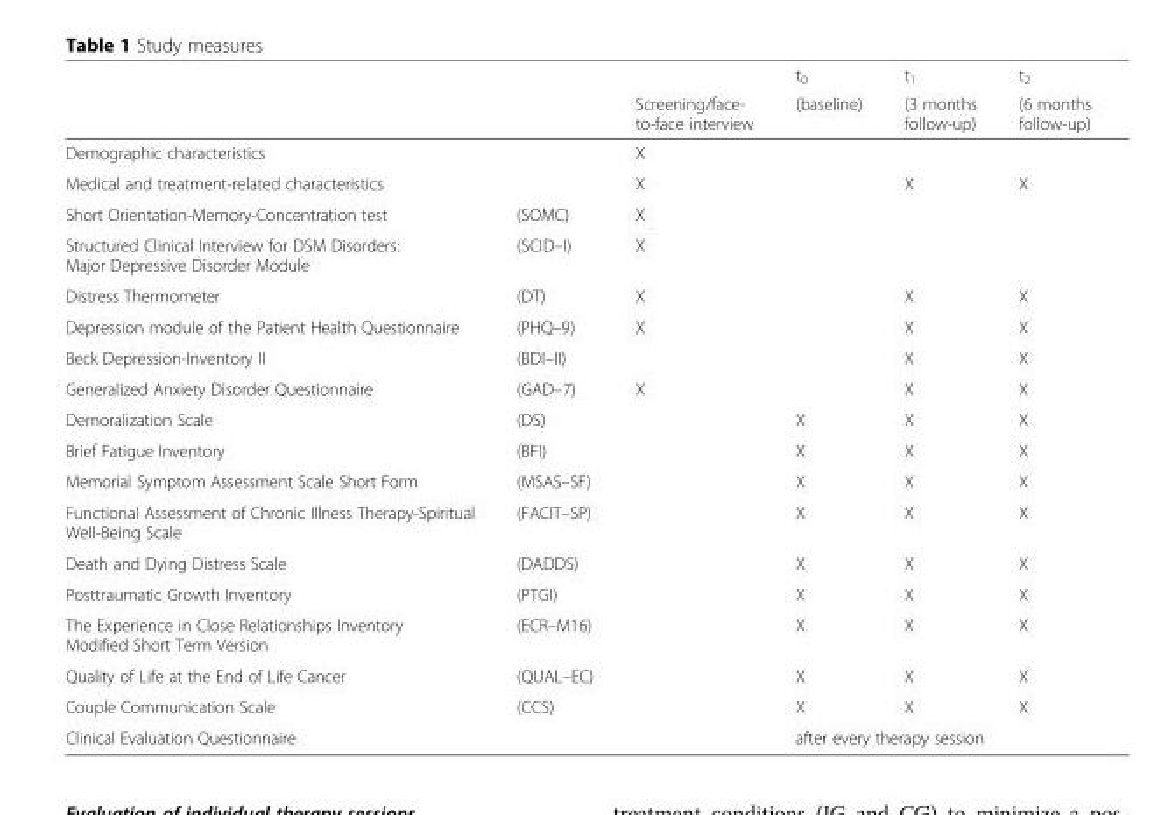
<table><thead><tr><td rowspan="2"></td><td rowspan="2"></td><td rowspan="2">Screening/face- to-face interview</td><td rowspan="2">t<sub>0</sub> (baseline)</td><td rowspan="2">t<sub>1</sub> (3 months follow-up)</td><td rowspan="2">t<sub>2</sub> (6 months follow-up)</td></tr><tr></tr></thead><tbody><tr><td>Demographic characteristics</td><td></td><td>X</td><td></td><td></td><td></td></tr><tr><td>Medical and treatment-related characteristics</td><td></td><td>X</td><td></td><td>X</td><td>X</td></tr><tr><td>Short Orientation-Memory-Concentration test</td><td>(SOMC)</td><td>X</td><td></td><td></td><td></td></tr><tr><td>Structured Clinical Interview for DSM Disorders: Major Depressive Disorder Module</td><td>(SCID–I)</td><td>X</td><td></td><td></td><td></td></tr><tr><td>Distress Thermometer</td><td>(DT)</td><td>X</td><td></td><td>X</td><td>X</td></tr><tr><td>Depression module of the Patient Health Questionnaire</td><td>(PHQ–9)</td><td>X</td><td></td><td>X</td><td>X</td></tr><tr><td>Beck Depression-Inventory II</td><td>(BDI–II)</td><td></td><td></td><td>X</td><td>X</td></tr><tr><td>Generalized Anxiety Disorder Questionnaire</td><td>(GAD–7)</td><td>X</td><td></td><td>X</td><td>X</td></tr><tr><td>Demoralization Scale</td><td>(DS)</td><td></td><td>X</td><td>X</td><td>X</td></tr><tr><td>Brief Fatigue Inventory</td><td>(BFI)</td><td></td><td>X</td><td>X</td><td>X</td></tr><tr><td>Memorial Symptom Assessment Scale Short Form</td><td>(MSAS–SF)</td><td></td><td>X</td><td>X</td><td>X</td></tr><tr><td>Functional Assessment of Chronic Illness Therapy-Spiritual Well-Being Scale</td><td>(FACIT–SP)</td><td></td><td>X</td><td>X</td><td>X</td></tr><tr><td>Death and Dying Distress Scale</td><td>(DADDS)</td><td></td><td>X</td><td>X</td><td>X</td></tr><tr><td>Posttraumatic Growth Inventory</td><td>(PTGI)</td><td></td><td>X</td><td>X</td><td>X</td></tr><tr><td>The Experience in Close Relationships Inventory Modified Short Term Version</td><td>(ECR–M16)</td><td></td><td>X</td><td>X</td><td>X</td></tr><tr><td>Quality of Life at the End of Life Cancer</td><td>(QUAL–EC)</td><td></td><td>X</td><td>X</td><td>X</td></tr><tr><td>Couple Communication Scale</td><td>(CCS)</td><td></td><td>X</td><td>X</td><td>X</td></tr><tr><td>Clinical Evaluation Questionnaire</td><td></td><td></td><td colspan="3">after every therapy session</td></tr></tbody></table>